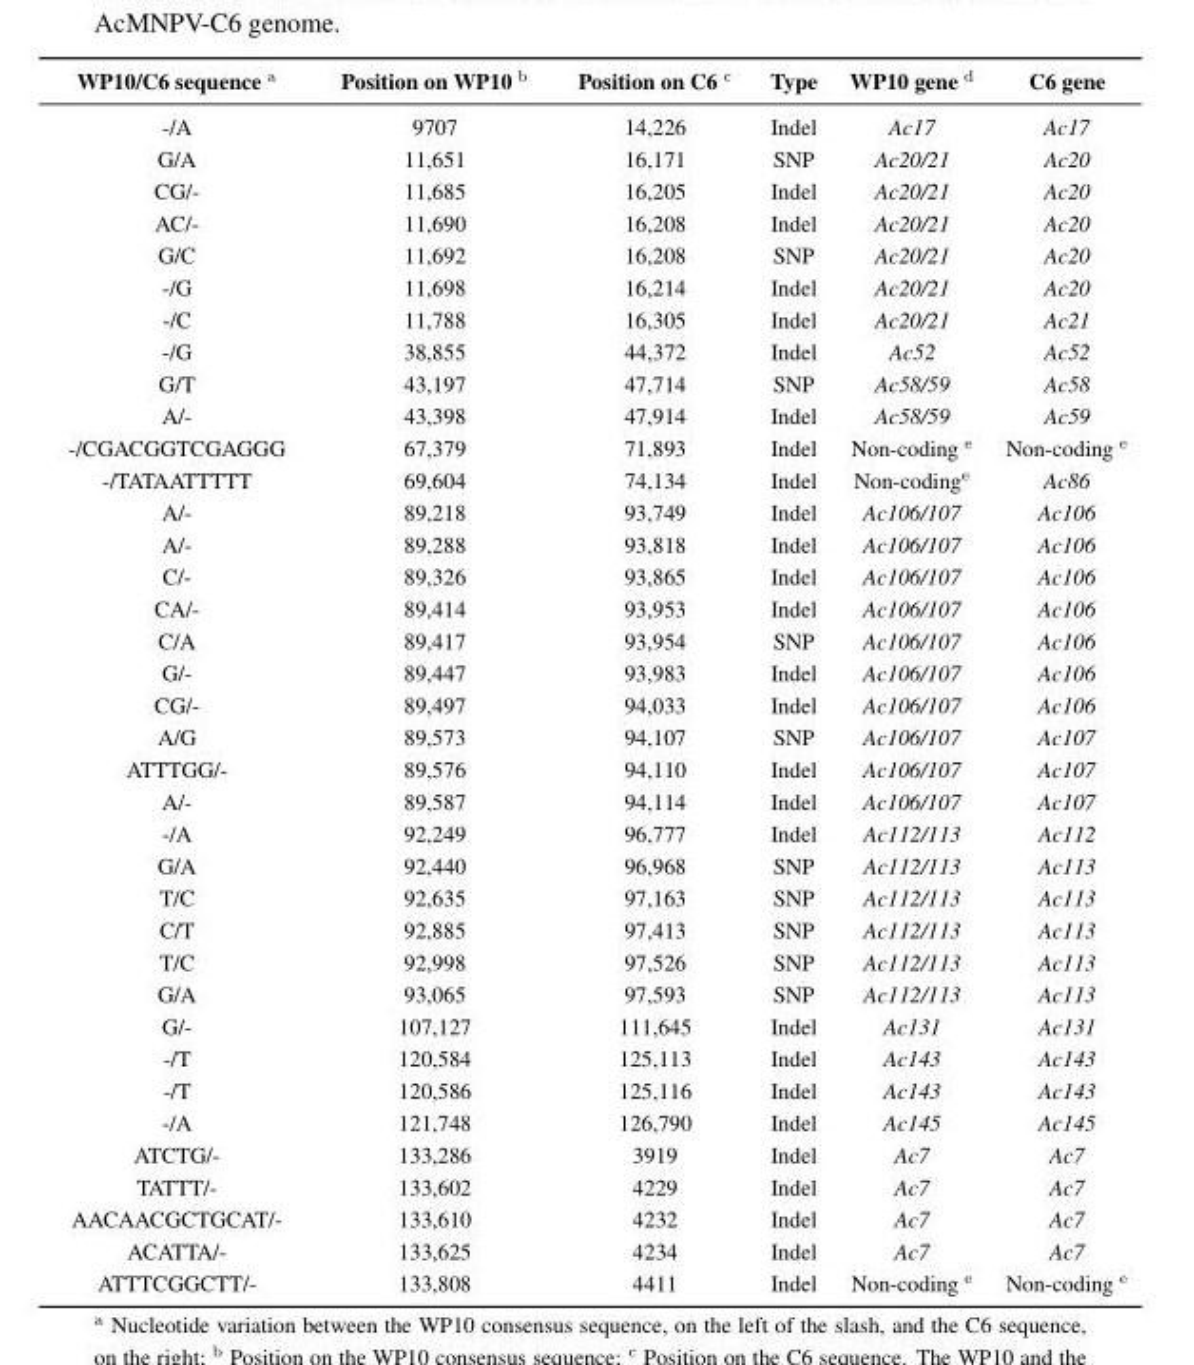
<table><thead><tr><td>WP10/C6 sequence <sup>a</sup></td><td>Position on WP10 <sup>b</sup></td><td>Position on C6 <sup>c</sup></td><td>Type</td><td>WP10 gene <sup>d</sup></td><td>C6 gene</td></tr></thead><tbody><tr><td>-/A</td><td>9707</td><td>14,226</td><td>Indel</td><td>Ac17</td><td>Ac17</td></tr><tr><td>G/A</td><td>11,651</td><td>16,171</td><td>SNP</td><td>Ac20/21</td><td>Ac20</td></tr><tr><td>CG/-</td><td>11,685</td><td>16,205</td><td>Indel</td><td>Ac20/21</td><td>Ac20</td></tr><tr><td>AC/-</td><td>11,690</td><td>16,208</td><td>Indel</td><td>Ac20/21</td><td>Ac20</td></tr><tr><td>G/C</td><td>11,692</td><td>16,208</td><td>SNP</td><td>Ac20/21</td><td>Ac20</td></tr><tr><td>-/G</td><td>11,698</td><td>16,214</td><td>Indel</td><td>Ac20/21</td><td>Ac20</td></tr><tr><td>-/C</td><td>11,788</td><td>16,305</td><td>Indel</td><td>Ac20/21</td><td>Ac21</td></tr><tr><td>-/G</td><td>38,855</td><td>44,372</td><td>Indel</td><td>Ac52</td><td>Ac52</td></tr><tr><td>G/T</td><td>43,197</td><td>47,714</td><td>SNP</td><td>Ac58/59</td><td>Ac58</td></tr><tr><td>A/-</td><td>43,398</td><td>47,914</td><td>Indel</td><td>Ac58/59</td><td>Ac59</td></tr><tr><td>-/CGACGGTCGAGGG</td><td>67,379</td><td>71,893</td><td>Indel</td><td>Non-coding <sup>e</sup></td><td>Non-coding <sup>e</sup></td></tr><tr><td>-/TATAATTTTT</td><td>69,604</td><td>74,134</td><td>Indel</td><td>Non-coding<sup>e</sup></td><td>Ac86</td></tr><tr><td>A/-</td><td>89,218</td><td>93,749</td><td>Indel</td><td>Ac106/107</td><td>Ac106</td></tr><tr><td>A/-</td><td>89,288</td><td>93,818</td><td>Indel</td><td>Ac106/107</td><td>Ac106</td></tr><tr><td>C/-</td><td>89,326</td><td>93,865</td><td>Indel</td><td>Ac106/107</td><td>Ac106</td></tr><tr><td>CA/-</td><td>89,414</td><td>93,953</td><td>Indel</td><td>Ac106/107</td><td>Ac106</td></tr><tr><td>C/A</td><td>89,417</td><td>93,954</td><td>SNP</td><td>Ac106/107</td><td>Ac106</td></tr><tr><td>G/-</td><td>89,447</td><td>93,983</td><td>Indel</td><td>Ac106/107</td><td>Ac106</td></tr><tr><td>CG/-</td><td>89,497</td><td>94,033</td><td>Indel</td><td>Ac106/107</td><td>Ac106</td></tr><tr><td>A/G</td><td>89,573</td><td>94,107</td><td>SNP</td><td>Ac106/107</td><td>Ac107</td></tr><tr><td>ATTTGG/-</td><td>89,576</td><td>94,110</td><td>Indel</td><td>Ac106/107</td><td>Ac107</td></tr><tr><td>A/-</td><td>89,587</td><td>94,114</td><td>Indel</td><td>Ac106/107</td><td>Ac107</td></tr><tr><td>-/A</td><td>92,249</td><td>96,777</td><td>Indel</td><td>Ac112/113</td><td>Ac112</td></tr><tr><td>G/A</td><td>92,440</td><td>96,968</td><td>SNP</td><td>Ac112/113</td><td>Ac113</td></tr><tr><td>T/C</td><td>92,635</td><td>97,163</td><td>SNP</td><td>Ac112/113</td><td>Ac113</td></tr><tr><td>C/T</td><td>92,885</td><td>97,413</td><td>SNP</td><td>Ac112/113</td><td>Ac113</td></tr><tr><td>T/C</td><td>92,998</td><td>97,526</td><td>SNP</td><td>Ac112/113</td><td>Ac113</td></tr><tr><td>G/A</td><td>93,065</td><td>97,593</td><td>SNP</td><td>Ac112/113</td><td>Ac113</td></tr><tr><td>G/-</td><td>107,127</td><td>111,645</td><td>Indel</td><td>Ac131</td><td>Ac131</td></tr><tr><td>-/T</td><td>120,584</td><td>125,113</td><td>Indel</td><td>Ac143</td><td>Ac143</td></tr><tr><td>-/T</td><td>120,586</td><td>125,116</td><td>Indel</td><td>Ac143</td><td>Ac143</td></tr><tr><td>-/A</td><td>121,748</td><td>126,790</td><td>Indel</td><td>Ac145</td><td>Ac145</td></tr><tr><td>ATCTG/-</td><td>133,286</td><td>3919</td><td>Indel</td><td>Ac7</td><td>Ac7</td></tr><tr><td>TATTT/-</td><td>133,602</td><td>4229</td><td>Indel</td><td>Ac7</td><td>Ac7</td></tr><tr><td>AACAACGCTGCAT/-</td><td>133,610</td><td>4232</td><td>Indel</td><td>Ac7</td><td>Ac7</td></tr><tr><td>ACATTA/-</td><td>133,625</td><td>4234</td><td>Indel</td><td>Ac7</td><td>Ac7</td></tr><tr><td>ATTTCGGCTT/-</td><td>133,808</td><td>4411</td><td>Indel</td><td>Non-coding <sup>e</sup></td><td>Non-coding <sup>e</sup></td></tr></tbody></table>